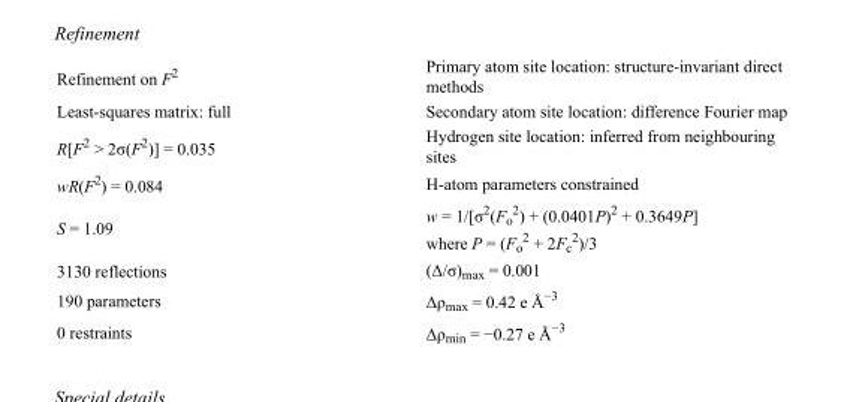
<table><tbody><tr><td>Refinement on F<sup>2</sup></td><td>Primary atom site location: structure-invariant direct methods</td></tr><tr><td>Least-squares matrix: full</td><td>Secondary atom site location: difference Fourier map</td></tr><tr><td>R[F<sup>2</sup> &gt; 2σ(F<sup>2</sup>)] = 0.035</td><td>Hydrogen site location: inferred from neighbouring sites</td></tr><tr><td>wR(F<sup>2</sup>) = 0.084</td><td>H-atom parameters constrained</td></tr><tr><td>S = 1.09</td><td>w = 1/[σ<sup>2</sup>(F<sub>o</sub> <sup>2</sup>) + (0.0401P)<sup>2</sup> + 0.3649P] where P = (F<sub>o</sub> <sup>2</sup> + 2F<sub>c</sub> <sup>2</sup>)/3</td></tr><tr><td>3130 reflections</td><td>(Δ/σ)<sub>max</sub> = 0.001</td></tr><tr><td>190 parameters</td><td>Δρ<sub>max</sub> = 0.42 e Å<sup>−3</sup></td></tr><tr><td>0 restraints</td><td>Δρ<sub>min</sub> = −0.27 e Å<sup>−3</sup></td></tr></tbody></table>